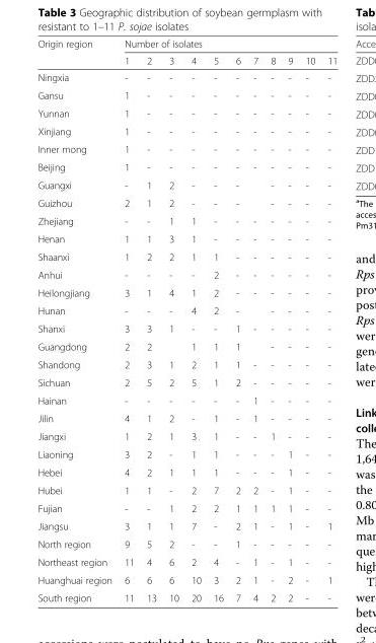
<table><thead><tr><td rowspan="2">Origin region</td><td colspan="11">Number of isolates</td></tr><tr><td>1</td><td>2</td><td>3</td><td>4</td><td>5</td><td>6</td><td>7</td><td>8</td><td>9</td><td>10</td><td>11</td></tr></thead><tbody><tr><td>Ningxia</td><td>-</td><td>-</td><td>-</td><td>-</td><td>-</td><td>-</td><td>-</td><td>-</td><td>-</td><td>-</td><td>-</td></tr><tr><td>Gansu</td><td>1</td><td>-</td><td>-</td><td>-</td><td>-</td><td>-</td><td>-</td><td>-</td><td>-</td><td>-</td><td>-</td></tr><tr><td>Yunnan</td><td>1</td><td>-</td><td>-</td><td>-</td><td>-</td><td>-</td><td>-</td><td>-</td><td>-</td><td>-</td><td>-</td></tr><tr><td>Xinjiang</td><td>1</td><td>-</td><td>-</td><td>-</td><td>-</td><td>-</td><td>-</td><td>-</td><td>-</td><td>-</td><td>-</td></tr><tr><td>Inner mong</td><td>1</td><td>-</td><td>-</td><td>-</td><td>-</td><td>-</td><td>-</td><td>-</td><td>-</td><td>-</td><td>-</td></tr><tr><td>Beijing</td><td>1</td><td>-</td><td>-</td><td>-</td><td>-</td><td>-</td><td>-</td><td>-</td><td>-</td><td>-</td><td>-</td></tr><tr><td>Guangxi</td><td>-</td><td>1</td><td>2</td><td>-</td><td>-</td><td>-</td><td></td><td>-</td><td>-</td><td>-</td><td>-</td></tr><tr><td>Guizhou</td><td>2</td><td>1</td><td>2</td><td>-</td><td>-</td><td>-</td><td></td><td>-</td><td>-</td><td>-</td><td>-</td></tr><tr><td>Zhejiang</td><td>-</td><td>-</td><td>1</td><td>1</td><td>-</td><td>-</td><td>-</td><td>-</td><td>-</td><td>-</td><td>-</td></tr><tr><td>Henan</td><td>1</td><td>1</td><td>3</td><td>1</td><td>-</td><td>-</td><td>-</td><td>-</td><td>-</td><td>-</td><td>-</td></tr><tr><td>Shaanxi</td><td>1</td><td>2</td><td>2</td><td>1</td><td>1</td><td>-</td><td>-</td><td>-</td><td>-</td><td>-</td><td>-</td></tr><tr><td>Anhui</td><td>-</td><td>-</td><td>-</td><td>-</td><td>2</td><td>-</td><td>-</td><td>-</td><td>-</td><td>-</td><td>-</td></tr><tr><td>Heilongjiang</td><td>3</td><td>1</td><td>4</td><td>1</td><td>2</td><td>-</td><td>-</td><td>-</td><td>-</td><td>-</td><td>-</td></tr><tr><td>Hunan</td><td>-</td><td>-</td><td>-</td><td>4</td><td>2</td><td>-</td><td></td><td>-</td><td>-</td><td>-</td><td>-</td></tr><tr><td>Shanxi</td><td>3</td><td>3</td><td>1</td><td>-</td><td>-</td><td>1</td><td>-</td><td>-</td><td>-</td><td>-</td><td>-</td></tr><tr><td>Guangdong</td><td>2</td><td>2</td><td></td><td>1</td><td>1</td><td>1</td><td></td><td>-</td><td>-</td><td>-</td><td>-</td></tr><tr><td>Shandong</td><td>2</td><td>3</td><td>1</td><td>2</td><td>1</td><td>1</td><td>-</td><td>-</td><td>-</td><td>-</td><td>-</td></tr><tr><td>Sichuan</td><td>2</td><td>5</td><td>2</td><td>5</td><td>1</td><td>2</td><td>-</td><td>-</td><td>-</td><td>-</td><td>-</td></tr><tr><td>Hainan</td><td>-</td><td>-</td><td>-</td><td>-</td><td>-</td><td>-</td><td>1</td><td>-</td><td>-</td><td>-</td><td>-</td></tr><tr><td>Jilin</td><td>4</td><td>1</td><td>2</td><td>-</td><td>1</td><td>-</td><td>1</td><td>-</td><td>-</td><td>-</td><td>-</td></tr><tr><td>Jiangxi</td><td>1</td><td>2</td><td>1</td><td>3</td><td>1</td><td>-</td><td>-</td><td>1</td><td>-</td><td>-</td><td>-</td></tr><tr><td>Liaoning</td><td>3</td><td>2</td><td>-</td><td>1</td><td>1</td><td>-</td><td>-</td><td>-</td><td>1</td><td>-</td><td>-</td></tr><tr><td>Hebei</td><td>4</td><td>2</td><td>1</td><td>1</td><td>1</td><td>-</td><td>-</td><td>-</td><td>1</td><td>-</td><td>-</td></tr><tr><td>Hubei</td><td>1</td><td>1</td><td>-</td><td>2</td><td>7</td><td>2</td><td>2</td><td>-</td><td>1</td><td>-</td><td>-</td></tr><tr><td>Fujian</td><td>-</td><td>-</td><td>1</td><td>2</td><td>2</td><td>1</td><td>1</td><td>1</td><td>1</td><td>-</td><td>-</td></tr><tr><td>Jiangsu</td><td>3</td><td>1</td><td>1</td><td>7</td><td>-</td><td>2</td><td>1</td><td>-</td><td>1</td><td>-</td><td>1</td></tr><tr><td>North region</td><td>9</td><td>5</td><td>2</td><td>-</td><td>-</td><td>1</td><td>-</td><td>-</td><td>-</td><td>-</td><td>-</td></tr><tr><td>Northeast region</td><td>11</td><td>4</td><td>6</td><td>2</td><td>4</td><td>-</td><td>1</td><td>-</td><td>1</td><td>-</td><td>-</td></tr><tr><td>Huanghuai region</td><td>6</td><td>6</td><td>6</td><td>10</td><td>3</td><td>2</td><td>1</td><td>-</td><td>2</td><td>-</td><td>1</td></tr><tr><td>South region</td><td>11</td><td>13</td><td>10</td><td>20</td><td>16</td><td>7</td><td>4</td><td>2</td><td>2</td><td>-</td><td>-</td></tr></tbody></table>